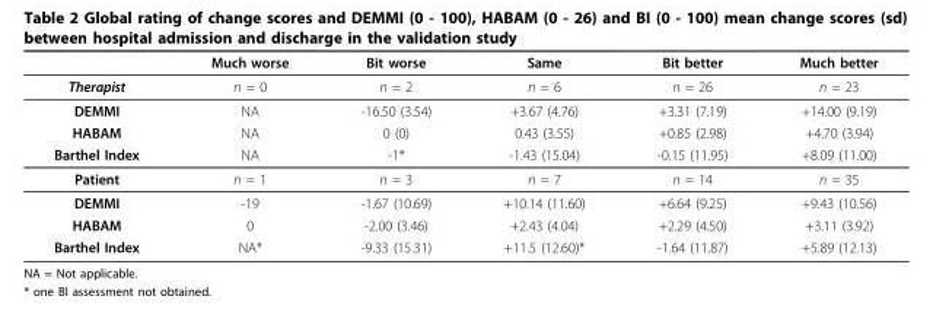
<table><thead><tr><td></td><td>Much worse</td><td>Bit worse</td><td>Same</td><td>Bit better</td><td>Much better</td></tr></thead><tbody><tr><td>Therapist</td><td>n = 0</td><td>n = 2</td><td>n = 6</td><td>n = 26</td><td>n = 23</td></tr><tr><td>DEMMI</td><td>NA</td><td>-16.50 (3.54)</td><td>+3.67 (4.76)</td><td>+3.31 (7.19)</td><td>+14.00 (9.19)</td></tr><tr><td>HABAM</td><td>NA</td><td>0 (0)</td><td>0.43 (3.55)</td><td>+0.85 (2.98)</td><td>+4.70 (3.94)</td></tr><tr><td>Barthel Index</td><td>NA</td><td>-1*</td><td>-1.43 (15.04)</td><td>-0.15 (11.95)</td><td>+8.09 (11.00)</td></tr><tr><td>Patient</td><td>n = 1</td><td>n = 3</td><td>n = 7</td><td>n = 14</td><td>n = 35</td></tr><tr><td>DEMMI</td><td>-19</td><td>-1.67 (10.69)</td><td>+10.14 (11.60)</td><td>+6.64 (9.25)</td><td>+9.43 (10.56)</td></tr><tr><td>HABAM</td><td>0</td><td>-2.00 (3.46)</td><td>+2.43 (4.04)</td><td>+2.29 (4.50)</td><td>+3.11 (3.92)</td></tr><tr><td>Barthel Index</td><td>NA*</td><td>-9.33 (15.31)</td><td>+11.5 (12.60)*</td><td>-1.64 (11.87)</td><td>+5.89 (12.13)</td></tr></tbody></table>